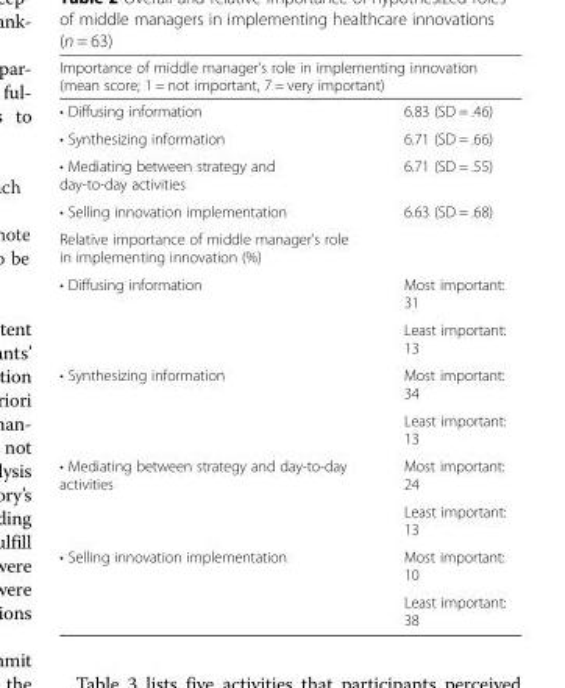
<table><thead><tr><td colspan="2">Importance of middle manager’s role in implementing innovation (mean score; 1 = not important, 7 = very important)</td></tr><tr><td>• Diffusing information</td><td>6.83 (SD = .46)</td></tr></thead><tbody><tr><td>• Synthesizing information</td><td>6.71 (SD = .66)</td></tr><tr><td>• Mediating between strategy and day-to-day activities</td><td>6.71 (SD = .55)</td></tr><tr><td>• Selling innovation implementation</td><td>6.63 (SD = .68)</td></tr><tr><td colspan="2">Relative importance of middle manager’s role in implementing innovation (%)</td></tr><tr><td rowspan="2">• Diffusing information</td><td>Most important: 31</td></tr><tr><td>Least important: 13</td></tr><tr><td rowspan="2">• Synthesizing information</td><td>Most important: 34</td></tr><tr><td>Least important: 13</td></tr><tr><td rowspan="2">• Mediating between strategy and day-to-day activities</td><td>Most important: 24</td></tr><tr><td>Least important: 13</td></tr><tr><td rowspan="2">• Selling innovation implementation</td><td>Most important: 10</td></tr><tr><td>Least important: 38</td></tr></tbody></table>